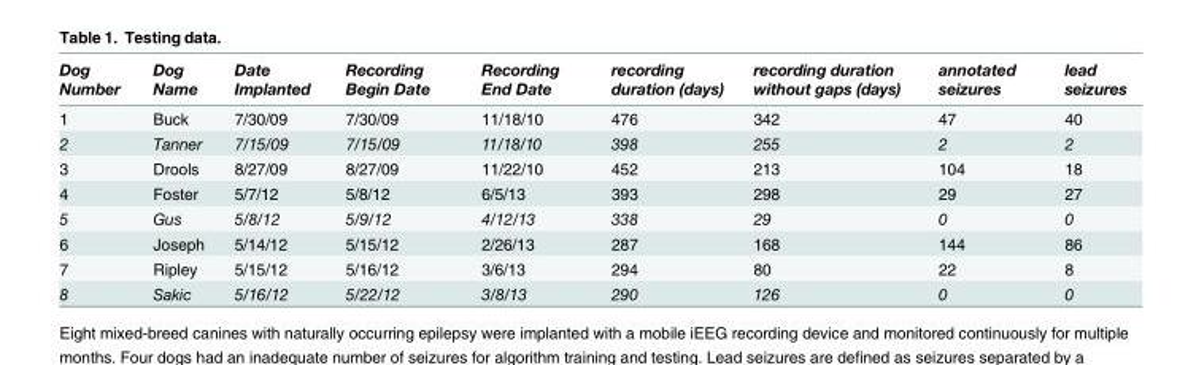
<table><thead><tr><td>Dog Number</td><td>Dog Name</td><td>Date Implanted</td><td>Recording Begin Date</td><td>Recording End Date</td><td>recording duration (days)</td><td>recording duration without gaps (days)</td><td>annotated seizures</td><td>lead seizures</td></tr></thead><tbody><tr><td>1</td><td>Buck</td><td>7/30/09</td><td>7/30/09</td><td>11/18/10</td><td>476</td><td>342</td><td>47</td><td>40</td></tr><tr><td>2</td><td>Tanner</td><td>7/15/09</td><td>7/15/09</td><td>11/18/10</td><td>398</td><td>255</td><td>2</td><td>2</td></tr><tr><td>3</td><td>Drools</td><td>8/27/09</td><td>8/27/09</td><td>11/22/10</td><td>452</td><td>213</td><td>104</td><td>18</td></tr><tr><td>4</td><td>Foster</td><td>5/7/12</td><td>5/8/12</td><td>6/5/13</td><td>393</td><td>298</td><td>29</td><td>27</td></tr><tr><td>5</td><td>Gus</td><td>5/8/12</td><td>5/9/12</td><td>4/12/13</td><td>338</td><td>29</td><td>0</td><td>0</td></tr><tr><td>6</td><td>Joseph</td><td>5/14/12</td><td>5/15/12</td><td>2/26/13</td><td>287</td><td>168</td><td>144</td><td>86</td></tr><tr><td>7</td><td>Ripley</td><td>5/15/12</td><td>5/16/12</td><td>3/6/13</td><td>294</td><td>80</td><td>22</td><td>8</td></tr><tr><td>8</td><td>Sakic</td><td>5/16/12</td><td>5/22/12</td><td>3/8/13</td><td>290</td><td>126</td><td>0</td><td>0</td></tr></tbody></table>